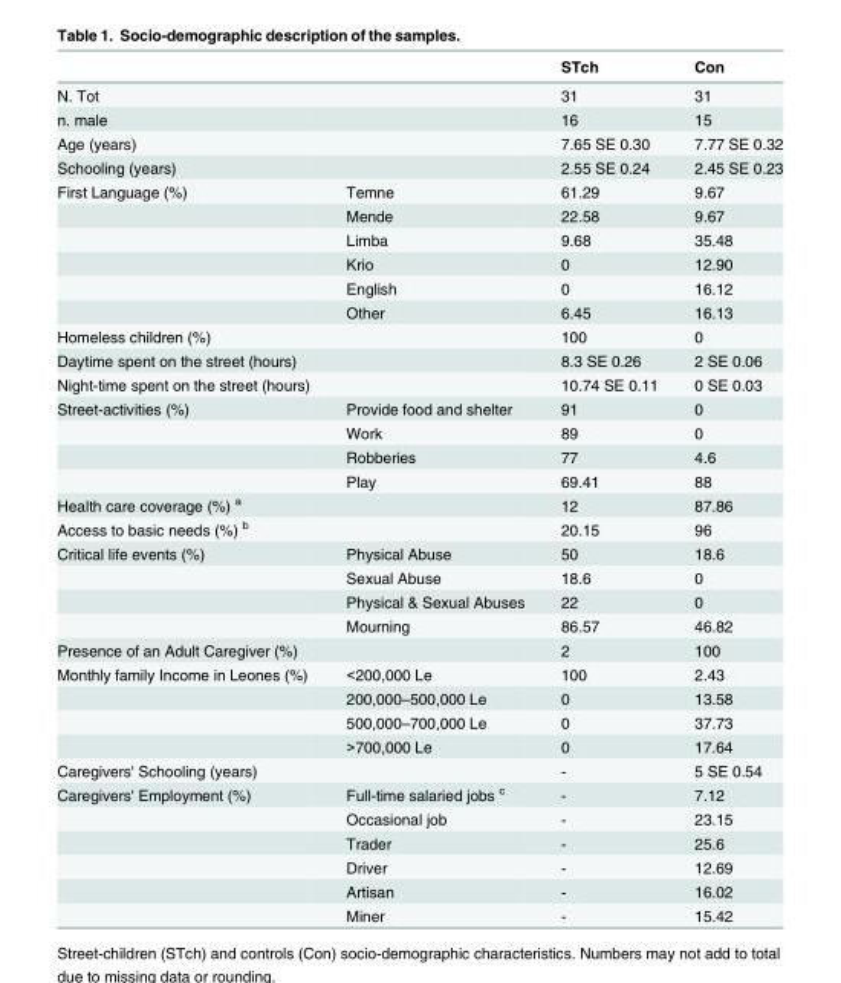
<table><thead><tr><td></td><td></td><td>STch</td><td>Con</td></tr></thead><tbody><tr><td>N. Tot</td><td></td><td>31</td><td>31</td></tr><tr><td>n. male</td><td></td><td>16</td><td>15</td></tr><tr><td>Age (years)</td><td></td><td>7.65 SE 0.30</td><td>7.77 SE 0.32</td></tr><tr><td>Schooling (years)</td><td></td><td>2.55 SE 0.24</td><td>2.45 SE 0.23</td></tr><tr><td rowspan="6">First Language (%)</td><td>Temne</td><td>61.29</td><td>9.67</td></tr><tr><td>Mende</td><td>22.58</td><td>9.67</td></tr><tr><td>Limba</td><td>9.68</td><td>35.48</td></tr><tr><td>Krio</td><td>0</td><td>12.90</td></tr><tr><td>English</td><td>0</td><td>16.12</td></tr><tr><td>Other</td><td>6.45</td><td>16.13</td></tr><tr><td>Homeless children (%)</td><td></td><td>100</td><td>0</td></tr><tr><td>Daytime spent on the street (hours)</td><td></td><td>8.3 SE 0.26</td><td>2 SE 0.06</td></tr><tr><td>Night-time spent on the street (hours)</td><td></td><td>10.74 SE 0.11</td><td>0 SE 0.03</td></tr><tr><td rowspan="4">Street-activities (%)</td><td>Provide food and shelter</td><td>91</td><td>0</td></tr><tr><td>Work</td><td>89</td><td>0</td></tr><tr><td>Robberies</td><td>77</td><td>4.6</td></tr><tr><td>Play</td><td>69.41</td><td>88</td></tr><tr><td>Health care coverage (%) <sup>a</sup></td><td></td><td>12</td><td>87.86</td></tr><tr><td>Access to basic needs (%) <sup>b</sup></td><td></td><td>20.15</td><td>96</td></tr><tr><td rowspan="4">Critical life events (%)</td><td>Physical Abuse</td><td>50</td><td>18.6</td></tr><tr><td>Sexual Abuse</td><td>18.6</td><td>0</td></tr><tr><td>Physical &amp; Sexual Abuses</td><td>22</td><td>0</td></tr><tr><td>Mourning</td><td>86.57</td><td>46.82</td></tr><tr><td>Presence of an Adult Caregiver (%)</td><td></td><td>2</td><td>100</td></tr><tr><td rowspan="4">Monthly family Income in Leones (%)</td><td>&lt;200,000 Le</td><td>100</td><td>2.43</td></tr><tr><td>200,000–500,000 Le</td><td>0</td><td>13.58</td></tr><tr><td>500,000–700,000 Le</td><td>0</td><td>37.73</td></tr><tr><td>&gt;700,000 Le</td><td>0</td><td>17.64</td></tr><tr><td>Caregivers&#x27; Schooling (years)</td><td></td><td>-</td><td>5 SE 0.54</td></tr><tr><td rowspan="6">Caregivers&#x27; Employment (%)</td><td>Full-time salaried jobs <sup>c</sup></td><td>-</td><td>7.12</td></tr><tr><td>Occasional job</td><td>-</td><td>23.15</td></tr><tr><td>Trader</td><td>-</td><td>25.6</td></tr><tr><td>Driver</td><td>-</td><td>12.69</td></tr><tr><td>Artisan</td><td>-</td><td>16.02</td></tr><tr><td>Miner</td><td>-</td><td>15.42</td></tr></tbody></table>